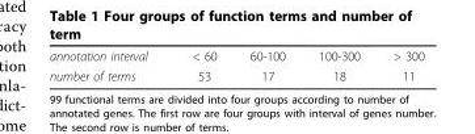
<table><tbody><tr><td>annotation interval</td><td>&lt; 60</td><td>60-100</td><td>100-300</td><td>&gt; 300</td></tr><tr><td>number of terms</td><td>53</td><td>17</td><td>18</td><td>11</td></tr></tbody></table>